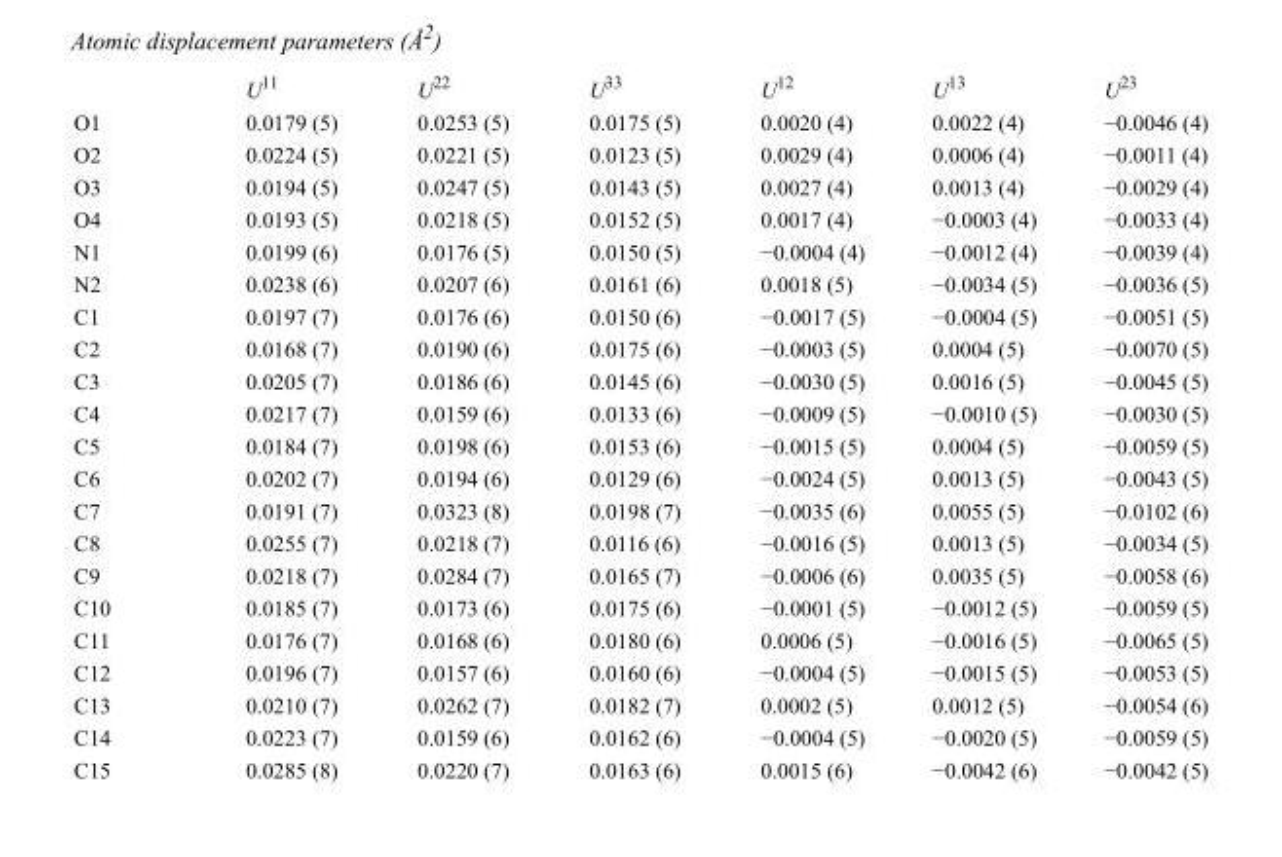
<table><thead><tr><td></td><td>U<sup>11</sup></td><td>U<sup>22</sup></td><td>U<sup>33</sup></td><td>U<sup>12</sup></td><td>U<sup>13</sup></td><td>U<sup>23</sup></td></tr></thead><tbody><tr><td>O1</td><td>0.0179 (5)</td><td>0.0253 (5)</td><td>0.0175 (5)</td><td>0.0020 (4)</td><td>0.0022 (4)</td><td>−0.0046 (4)</td></tr><tr><td>O2</td><td>0.0224 (5)</td><td>0.0221 (5)</td><td>0.0123 (5)</td><td>0.0029 (4)</td><td>0.0006 (4)</td><td>−0.0011 (4)</td></tr><tr><td>O3</td><td>0.0194 (5)</td><td>0.0247 (5)</td><td>0.0143 (5)</td><td>0.0027 (4)</td><td>0.0013 (4)</td><td>−0.0029 (4)</td></tr><tr><td>O4</td><td>0.0193 (5)</td><td>0.0218 (5)</td><td>0.0152 (5)</td><td>0.0017 (4)</td><td>−0.0003 (4)</td><td>−0.0033 (4)</td></tr><tr><td>N1</td><td>0.0199 (6)</td><td>0.0176 (5)</td><td>0.0150 (5)</td><td>−0.0004 (4)</td><td>−0.0012 (4)</td><td>−0.0039 (4)</td></tr><tr><td>N2</td><td>0.0238 (6)</td><td>0.0207 (6)</td><td>0.0161 (6)</td><td>0.0018 (5)</td><td>−0.0034 (5)</td><td>−0.0036 (5)</td></tr><tr><td>C1</td><td>0.0197 (7)</td><td>0.0176 (6)</td><td>0.0150 (6)</td><td>−0.0017 (5)</td><td>−0.0004 (5)</td><td>−0.0051 (5)</td></tr><tr><td>C2</td><td>0.0168 (7)</td><td>0.0190 (6)</td><td>0.0175 (6)</td><td>−0.0003 (5)</td><td>0.0004 (5)</td><td>−0.0070 (5)</td></tr><tr><td>C3</td><td>0.0205 (7)</td><td>0.0186 (6)</td><td>0.0145 (6)</td><td>−0.0030 (5)</td><td>0.0016 (5)</td><td>−0.0045 (5)</td></tr><tr><td>C4</td><td>0.0217 (7)</td><td>0.0159 (6)</td><td>0.0133 (6)</td><td>−0.0009 (5)</td><td>−0.0010 (5)</td><td>−0.0030 (5)</td></tr><tr><td>C5</td><td>0.0184 (7)</td><td>0.0198 (6)</td><td>0.0153 (6)</td><td>−0.0015 (5)</td><td>0.0004 (5)</td><td>−0.0059 (5)</td></tr><tr><td>C6</td><td>0.0202 (7)</td><td>0.0194 (6)</td><td>0.0129 (6)</td><td>−0.0024 (5)</td><td>0.0013 (5)</td><td>−0.0043 (5)</td></tr><tr><td>C7</td><td>0.0191 (7)</td><td>0.0323 (8)</td><td>0.0198 (7)</td><td>−0.0035 (6)</td><td>0.0055 (5)</td><td>−0.0102 (6)</td></tr><tr><td>C8</td><td>0.0255 (7)</td><td>0.0218 (7)</td><td>0.0116 (6)</td><td>−0.0016 (5)</td><td>0.0013 (5)</td><td>−0.0034 (5)</td></tr><tr><td>C9</td><td>0.0218 (7)</td><td>0.0284 (7)</td><td>0.0165 (7)</td><td>−0.0006 (6)</td><td>0.0035 (5)</td><td>−0.0058 (6)</td></tr><tr><td>C10</td><td>0.0185 (7)</td><td>0.0173 (6)</td><td>0.0175 (6)</td><td>−0.0001 (5)</td><td>−0.0012 (5)</td><td>−0.0059 (5)</td></tr><tr><td>C11</td><td>0.0176 (7)</td><td>0.0168 (6)</td><td>0.0180 (6)</td><td>0.0006 (5)</td><td>−0.0016 (5)</td><td>−0.0065 (5)</td></tr><tr><td>C12</td><td>0.0196 (7)</td><td>0.0157 (6)</td><td>0.0160 (6)</td><td>−0.0004 (5)</td><td>−0.0015 (5)</td><td>−0.0053 (5)</td></tr><tr><td>C13</td><td>0.0210 (7)</td><td>0.0262 (7)</td><td>0.0182 (7)</td><td>0.0002 (5)</td><td>0.0012 (5)</td><td>−0.0054 (6)</td></tr><tr><td>C14</td><td>0.0223 (7)</td><td>0.0159 (6)</td><td>0.0162 (6)</td><td>−0.0004 (5)</td><td>−0.0020 (5)</td><td>−0.0059 (5)</td></tr><tr><td>C15</td><td>0.0285 (8)</td><td>0.0220 (7)</td><td>0.0163 (6)</td><td>0.0015 (6)</td><td>−0.0042 (6)</td><td>−0.0042 (5)</td></tr></tbody></table>